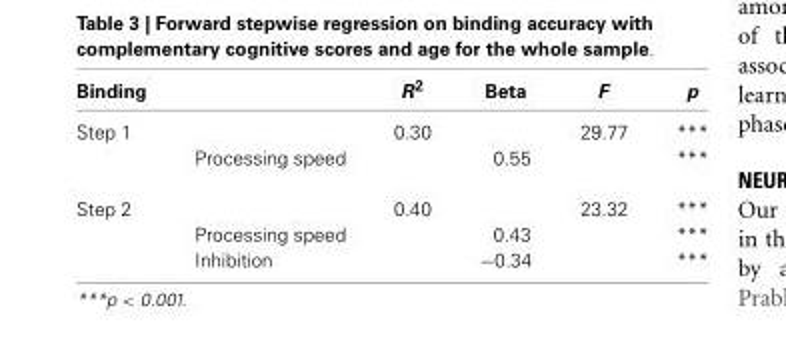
<table><thead><tr><td>Binding</td><td></td><td>R<sup>2</sup></td><td>Beta</td><td>F</td><td>p</td></tr></thead><tbody><tr><td rowspan="2">Step 1</td><td></td><td>0.30</td><td></td><td>29.77</td><td>***</td></tr><tr><td>Processing speed</td><td></td><td>0.55</td><td></td><td>***</td></tr><tr><td rowspan="3">Step 2</td><td></td><td>0.40</td><td></td><td>23.32</td><td>***</td></tr><tr><td>Processing speed</td><td></td><td>0.43</td><td></td><td>***</td></tr><tr><td>Inhibition</td><td></td><td>−0.34</td><td></td><td>***</td></tr></tbody></table>